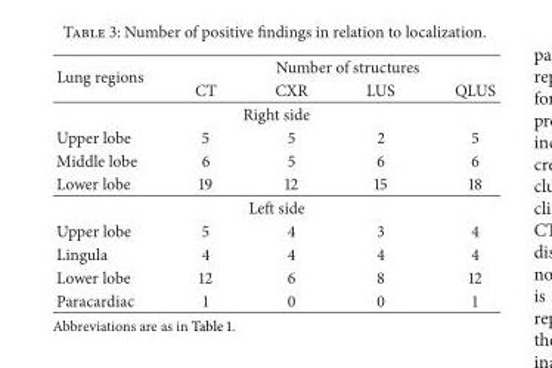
<table><thead><tr><td rowspan="2">Lung regions</td><td colspan="4">Number of structures</td></tr><tr><td>CT</td><td>CXR</td><td>LUS</td><td>QLUS</td></tr></thead><tbody><tr><td colspan="5">Right side</td></tr><tr><td>Upper lobe</td><td>5</td><td>5</td><td>2</td><td>5</td></tr><tr><td>Middle lobe</td><td>6</td><td>5</td><td>6</td><td>6</td></tr><tr><td>Lower lobe</td><td>19</td><td>12</td><td>15</td><td>18</td></tr><tr><td colspan="5">Left side</td></tr><tr><td>Upper lobe</td><td>5</td><td>4</td><td>3</td><td>4</td></tr><tr><td>Lingula</td><td>4</td><td>4</td><td>4</td><td>4</td></tr><tr><td>Lower lobe</td><td>12</td><td>6</td><td>8</td><td>12</td></tr><tr><td>Paracardiac</td><td>1</td><td>0</td><td>0</td><td>1</td></tr></tbody></table>